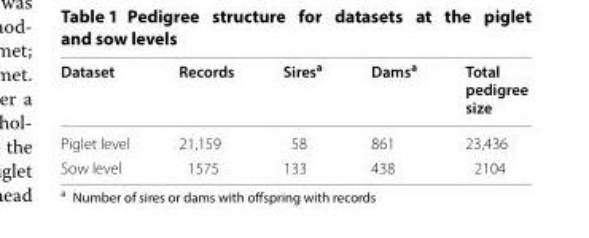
<table><thead><tr><td>Dataset</td><td>Records</td><td>Sires<sup>a</sup></td><td>Dams<sup>a</sup></td><td>Total pedigree size</td></tr></thead><tbody><tr><td>Piglet level</td><td>21,159</td><td>58</td><td>861</td><td>23,436</td></tr><tr><td>Sow level</td><td>1575</td><td>133</td><td>438</td><td>2104</td></tr></tbody></table>